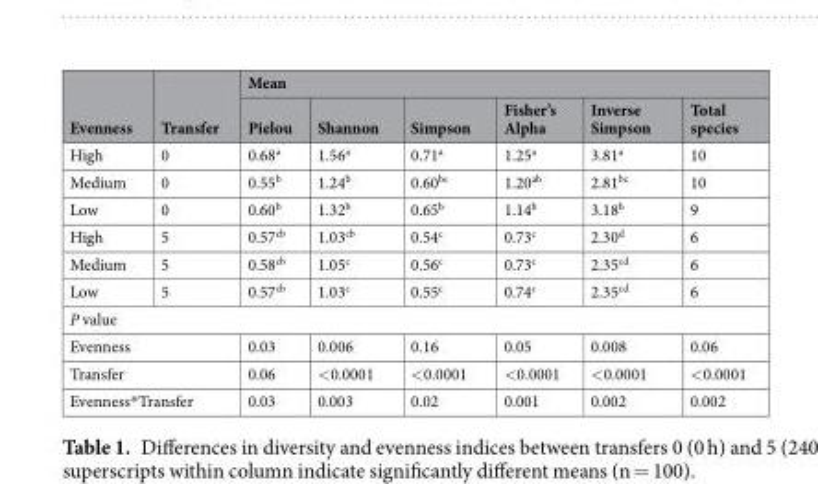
<table><thead><tr><td rowspan="2">Evenness</td><td rowspan="2">Transfer</td><td colspan="6">Mean</td></tr><tr><td>Pielou</td><td>Shannon</td><td>Simpson</td><td>Fisher’s Alpha</td><td>Inverse Simpson</td><td>Total species</td></tr></thead><tbody><tr><td>High</td><td>0</td><td>0.68<sup>a</sup></td><td>1.56<sup>a</sup></td><td>0.71<sup>a</sup></td><td>1.25<sup>a</sup></td><td>3.81<sup>a</sup></td><td>10</td></tr><tr><td>Medium</td><td>0</td><td>0.55<sup>b</sup></td><td>1.24<sup>b</sup></td><td>0.60<sup>bc</sup></td><td>1.20<sup>ab</sup></td><td>2.81<sup>bc</sup></td><td>10</td></tr><tr><td>Low</td><td>0</td><td>0.60<sup>b</sup></td><td>1.32<sup>b</sup></td><td>0.65<sup>b</sup></td><td>1.14<sup>b</sup></td><td>3.18<sup>b</sup></td><td>9</td></tr><tr><td>High</td><td>5</td><td>0.57<sup>cb</sup></td><td>1.03<sup>cb</sup></td><td>0.54<sup>c</sup></td><td>0.73<sup>c</sup></td><td>2.30<sup>d</sup></td><td>6</td></tr><tr><td>Medium</td><td>5</td><td>0.58<sup>cb</sup></td><td>1.05<sup>c</sup></td><td>0.56<sup>c</sup></td><td>0.73<sup>c</sup></td><td>2.35<sup>cd</sup></td><td>6</td></tr><tr><td>Low</td><td>5</td><td>0.57<sup>cb</sup></td><td>1.03<sup>c</sup></td><td>0.55<sup>c</sup></td><td>0.74<sup>c</sup></td><td>2.35<sup>cd</sup></td><td>6</td></tr><tr><td colspan="8">P value</td></tr><tr><td colspan="2">Evenness</td><td>0.03</td><td>0.006</td><td>0.16</td><td>0.05</td><td>0.008</td><td>0.06</td></tr><tr><td colspan="2">Transfer</td><td>0.06</td><td>&lt;0.0001</td><td>&lt;0.0001</td><td>&lt;0.0001</td><td>&lt;0.0001</td><td>&lt;0.0001</td></tr><tr><td colspan="2">Evenness*Transfer</td><td>0.03</td><td>0.003</td><td>0.02</td><td>0.001</td><td>0.002</td><td>0.002</td></tr></tbody></table>